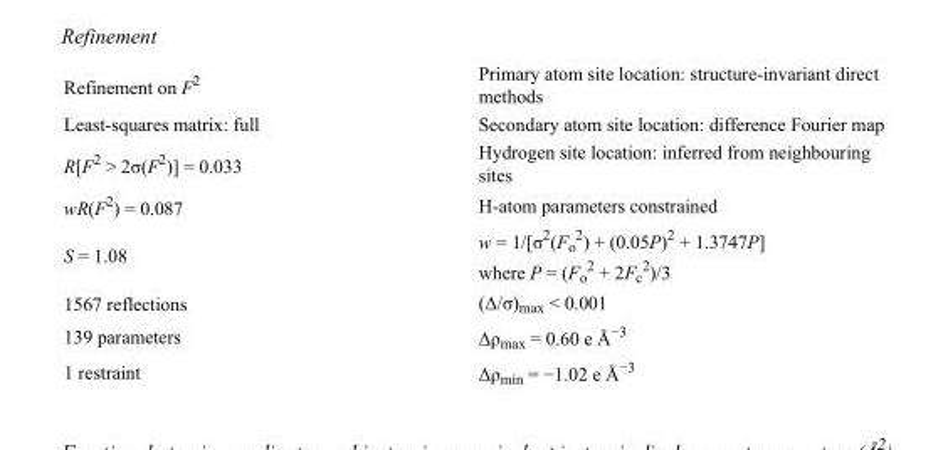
<table><tbody><tr><td>Refinement on F<sup>2</sup></td><td>Primary atom site location: structure-invariant direct methods</td></tr><tr><td>Least-squares matrix: full</td><td>Secondary atom site location: difference Fourier map</td></tr><tr><td>R[F<sup>2</sup> &gt; 2σ(F<sup>2</sup>)] = 0.033</td><td>Hydrogen site location: inferred from neighbouring sites</td></tr><tr><td>wR(F<sup>2</sup>) = 0.087</td><td>H-atom parameters constrained</td></tr><tr><td>S = 1.08</td><td>w = 1/[σ<sup>2</sup>(F<sub>o</sub> <sup>2</sup>) + (0.05P)<sup>2</sup> + 1.3747P] where P = (F<sub>o</sub> <sup>2</sup> + 2F<sub>c</sub> <sup>2</sup>)/3</td></tr><tr><td>1567 reflections</td><td>(Δ/σ)<sub>max</sub> &lt; 0.001</td></tr><tr><td>139 parameters</td><td>Δρ<sub>max</sub> = 0.60 e Å<sup>−3</sup></td></tr><tr><td>1 restraint</td><td>Δρ<sub>min</sub> = −1.02 e Å<sup>−3</sup></td></tr></tbody></table>